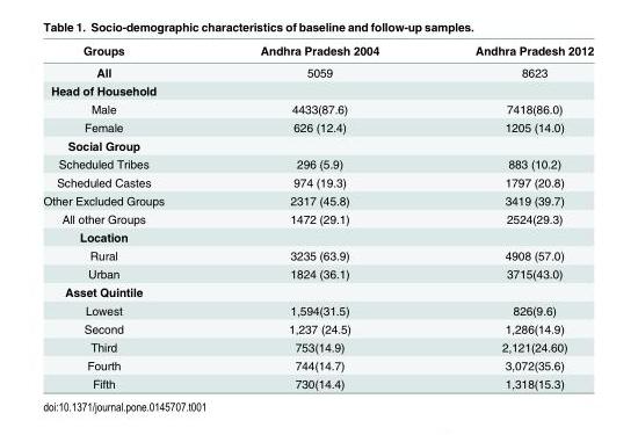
<table><thead><tr><td>Groups</td><td>Andhra Pradesh 2004</td><td>Andhra Pradesh 2012</td></tr></thead><tbody><tr><td>All</td><td>5059</td><td>8623</td></tr><tr><td colspan="3">Head of Household</td></tr><tr><td>Male</td><td>4433(87.6)</td><td>7418(86.0)</td></tr><tr><td>Female</td><td>626 (12.4)</td><td>1205 (14.0)</td></tr><tr><td colspan="3">Social Group</td></tr><tr><td>Scheduled Tribes</td><td>296 (5.9)</td><td>883 (10.2)</td></tr><tr><td>Scheduled Castes</td><td>974 (19.3)</td><td>1797 (20.8)</td></tr><tr><td>Other Excluded Groups</td><td>2317 (45.8)</td><td>3419 (39.7)</td></tr><tr><td>All other Groups</td><td>1472 (29.1)</td><td>2524(29.3)</td></tr><tr><td colspan="3">Location</td></tr><tr><td>Rural</td><td>3235 (63.9)</td><td>4908 (57.0)</td></tr><tr><td>Urban</td><td>1824 (36.1)</td><td>3715(43.0)</td></tr><tr><td colspan="3">Asset Quintile</td></tr><tr><td>Lowest</td><td>1,594(31.5)</td><td>826(9.6)</td></tr><tr><td>Second</td><td>1,237 (24.5)</td><td>1,286(14.9)</td></tr><tr><td>Third</td><td>753(14.9)</td><td>2,121(24.60)</td></tr><tr><td>Fourth</td><td>744(14.7)</td><td>3,072(35.6)</td></tr><tr><td>Fifth</td><td>730(14.4)</td><td>1,318(15.3)</td></tr></tbody></table>